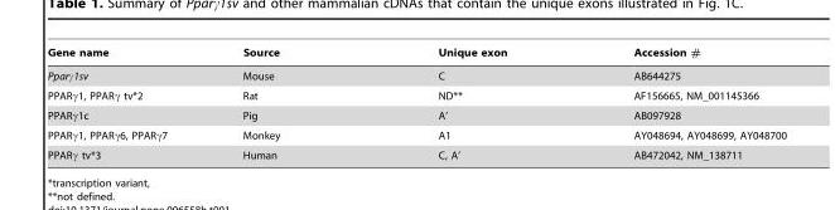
<table><thead><tr><td>Gene name</td><td>Source</td><td>Unique exon</td><td>Accession #</td></tr></thead><tbody><tr><td>Pparγ1sv</td><td>Mouse</td><td>C</td><td>AB644275</td></tr><tr><td>PPARγ1, PPARγ tv*2</td><td>Rat</td><td>ND**</td><td>AF156665, NM_001145366</td></tr><tr><td>PPARγ1c</td><td>Pig</td><td>A’</td><td>AB097928</td></tr><tr><td>PPARγ1, PPARγ6, PPARγ7</td><td>Monkey</td><td>A1</td><td>AY048694, AY048699, AY048700</td></tr><tr><td>PPARγ tv*3</td><td>Human</td><td>C, A’</td><td>AB472042, NM_138711</td></tr></tbody></table>